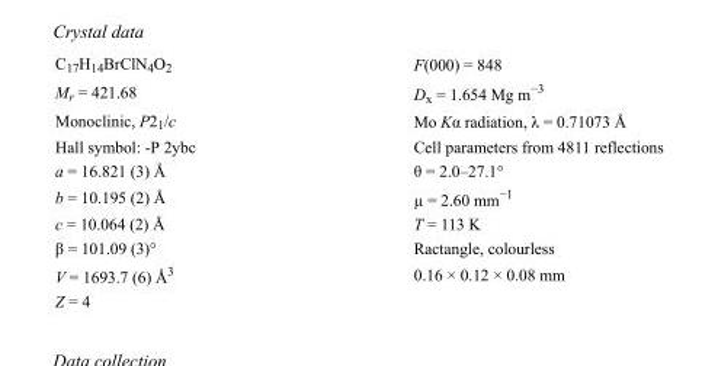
<table><tbody><tr><td>C<sub>17</sub>H<sub>14</sub>BrClN<sub>4</sub>O<sub>2</sub></td><td>F(000) = 848</td></tr><tr><td>M<sub>r</sub> = 421.68</td><td>D<sub>x</sub> = 1.654 Mg m<sup>−3</sup></td></tr><tr><td>Monoclinic, P2<sub>1</sub>/c</td><td>Mo Kα radiation, λ = 0.71073 Å</td></tr><tr><td>Hall symbol: -P 2ybc</td><td>Cell parameters from 4811 reflections</td></tr><tr><td>a = 16.821 (3) Å</td><td>θ = 2.0–27.1°</td></tr><tr><td>b = 10.195 (2) Å</td><td>µ = 2.60 mm<sup>−1</sup></td></tr><tr><td>c = 10.064 (2) Å</td><td>T = 113 K</td></tr><tr><td>β = 101.09 (3)°</td><td>Ractangle, colourless</td></tr><tr><td>V = 1693.7 (6) Å<sup>3</sup></td><td>0.16 × 0.12 × 0.08 mm</td></tr><tr><td>Z = 4</td><td></td></tr></tbody></table>